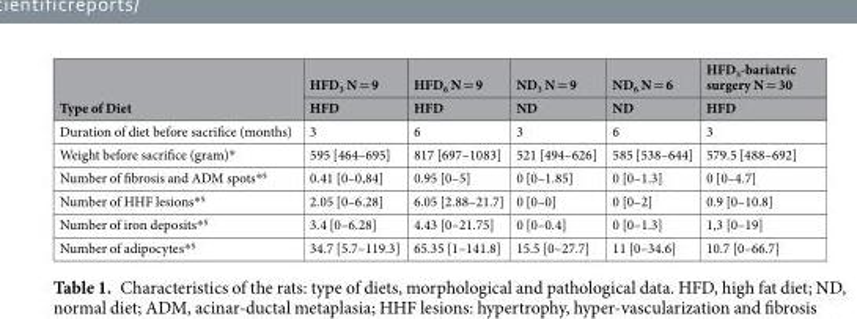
<table><thead><tr><td rowspan="2">Type of Diet</td><td rowspan="2">HFD<sub>3</sub> N = 9 HFD</td><td rowspan="2">HFD<sub>6</sub> N = 9 HFD</td><td rowspan="2">ND<sub>3</sub> N = 9 ND</td><td rowspan="2">ND<sub>6</sub> N = 6 ND</td><td rowspan="2">HFD<sub>3</sub>-bariatric surgery N = 30 HFD</td></tr><tr></tr></thead><tbody><tr><td>Duration of diet before sacrifice (months)</td><td>3</td><td>6</td><td>3</td><td>6</td><td>3</td></tr><tr><td>Weight before sacrifice (gram)*</td><td>595 [464–695]</td><td>817 [697–1083]</td><td>521 [494–626]</td><td>585 [538–644]</td><td>579.5 [488–692]</td></tr><tr><td>Number of fibrosis and ADM spots*<sup>§</sup></td><td>0.41 [0–0,84]</td><td>0.95 [0–5]</td><td>0 [0–1.85]</td><td>0 [0–1.3]</td><td>0 [0–4.7]</td></tr><tr><td>Number of HHF lesions*<sup>§</sup></td><td>2.05 [0–6.28]</td><td>6.05 [2.88–21.7]</td><td>0 [0–0]</td><td>0 [0–2]</td><td>0.9 [0–10.8]</td></tr><tr><td>Number of iron deposits*<sup>§</sup></td><td>3.4 [0–6.28]</td><td>4.43 [0–21.75]</td><td>0 [0–0.4]</td><td>0 [0–1.3]</td><td>1,3 [0–19]</td></tr><tr><td>Number of adipocytes*<sup>§</sup></td><td>34.7 [5.7–119.3]</td><td>65.35 [1–141.8]</td><td>15.5 [0–27.7]</td><td>11 [0–34.6]</td><td>10.7 [0–66.7]</td></tr></tbody></table>